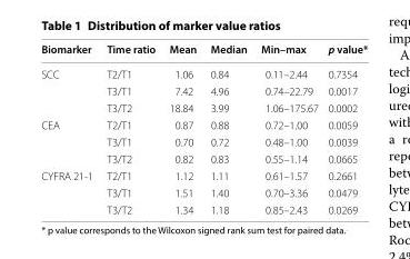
<table><thead><tr><td>Biomarker</td><td>Time ratio</td><td>Mean</td><td>Median</td><td>Min–max</td><td>p value*</td></tr></thead><tbody><tr><td rowspan="3">SCC</td><td>T2/T1</td><td>1.06</td><td>0.84</td><td>0.11–2.44</td><td>0.7354</td></tr><tr><td>T3/T1</td><td>7.42</td><td>4.96</td><td>0.74–22.79</td><td>0.0017</td></tr><tr><td>T3/T2</td><td>18.84</td><td>3.99</td><td>1.06–175.67</td><td>0.0002</td></tr><tr><td rowspan="3">CEA</td><td>T2/T1</td><td>0.87</td><td>0.88</td><td>0.72–1.00</td><td>0.0059</td></tr><tr><td>T3/T1</td><td>0.70</td><td>0.72</td><td>0.48–1.00</td><td>0.0039</td></tr><tr><td>T3/T2</td><td>0.82</td><td>0.83</td><td>0.55–1.14</td><td>0.0665</td></tr><tr><td rowspan="3">CYFRA 21‑1</td><td>T2/T1</td><td>1.12</td><td>1.11</td><td>0.61–1.57</td><td>0.2661</td></tr><tr><td>T3/T1</td><td>1.51</td><td>1.40</td><td>0.70–3.36</td><td>0.0479</td></tr><tr><td>T3/T2</td><td>1.34</td><td>1.18</td><td>0.85–2.43</td><td>0.0269</td></tr></tbody></table>